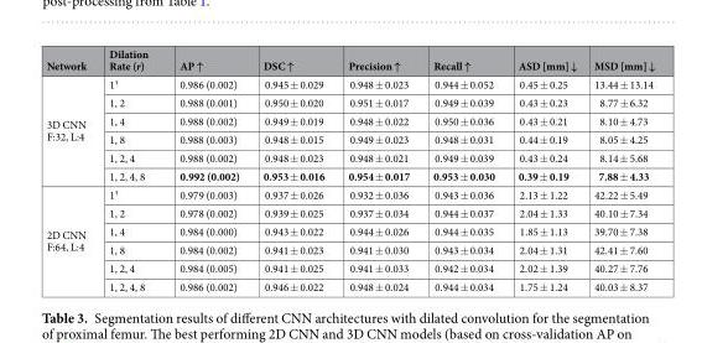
<table><thead><tr><td>Network</td><td>Dilation Rate (r)</td><td>AP ↑</td><td>DSC ↑</td><td>Precision ↑</td><td>Recall ↑</td><td>ASD [mm] ↓</td><td>MSD [mm] ↓</td></tr></thead><tbody><tr><td rowspan="6">3D CNN F:32, L:4</td><td>1<sup>†</sup></td><td>0.986 (0.002)</td><td>0.945 ± 0.029</td><td>0.948 ± 0.023</td><td>0.944 ± 0.052</td><td>0.45 ± 0.25</td><td>13.44 ± 13.14</td></tr><tr><td>1, 2</td><td>0.988 (0.001)</td><td>0.950 ± 0.020</td><td>0.951 ± 0.017</td><td>0.949 ± 0.039</td><td>0.43 ± 0.23</td><td>8.77 ± 6.32</td></tr><tr><td>1, 4</td><td>0.988 (0.002)</td><td>0.949 ± 0.019</td><td>0.948 ± 0.022</td><td>0.950 ± 0.036</td><td>0.43 ± 0.21</td><td>8.10 ± 4.73</td></tr><tr><td>1, 8</td><td>0.988 (0.003)</td><td>0.948 ± 0.015</td><td>0.949 ± 0.023</td><td>0.948 ± 0.031</td><td>0.44 ± 0.19</td><td>8.05 ± 4.25</td></tr><tr><td>1, 2, 4</td><td>0.988 (0.002)</td><td>0.948 ± 0.023</td><td>0.948 ± 0.021</td><td>0.949 ± 0.039</td><td>0.43 ± 0.24</td><td>8.14 ± 5.68</td></tr><tr><td>1, 2, 4, 8</td><td>0.992 (0.002)</td><td>0.953 ± 0.016</td><td>0.954 ± 0.017</td><td>0.953 ± 0.030</td><td>0.39 ± 0.19</td><td>7.88 ± 4.33</td></tr><tr><td rowspan="6">2D CNN F:64, L:4</td><td>1<sup>†</sup></td><td>0.979 (0.003)</td><td>0.937 ± 0.026</td><td>0.932 ± 0.036</td><td>0.943 ± 0.036</td><td>2.13 ± 1.22</td><td>42.22 ± 5.49</td></tr><tr><td>1, 2</td><td>0.978 (0.002)</td><td>0.939 ± 0.025</td><td>0.937 ± 0.034</td><td>0.944 ± 0.037</td><td>2.04 ± 1.33</td><td>40.10 ± 7.34</td></tr><tr><td>1, 4</td><td>0.984 (0.000)</td><td>0.943 ± 0.022</td><td>0.944 ± 0.026</td><td>0.944 ± 0.035</td><td>1.85 ± 1.13</td><td>39.70 ± 7.38</td></tr><tr><td>1, 8</td><td>0.984 (0.002)</td><td>0.941 ± 0.023</td><td>0.941 ± 0.030</td><td>0.943 ± 0.034</td><td>2.04 ± 1.31</td><td>42.41 ± 7.60</td></tr><tr><td>1, 2, 4</td><td>0.984 (0.005)</td><td>0.941 ± 0.025</td><td>0.941 ± 0.033</td><td>0.942 ± 0.034</td><td>2.02 ± 1.39</td><td>40.27 ± 7.76</td></tr><tr><td>1, 2, 4, 8</td><td>0.986 (0.002)</td><td>0.946 ± 0.022</td><td>0.948 ± 0.024</td><td>0.944 ± 0.034</td><td>1.75 ± 1.24</td><td>40.03 ± 8.37</td></tr></tbody></table>